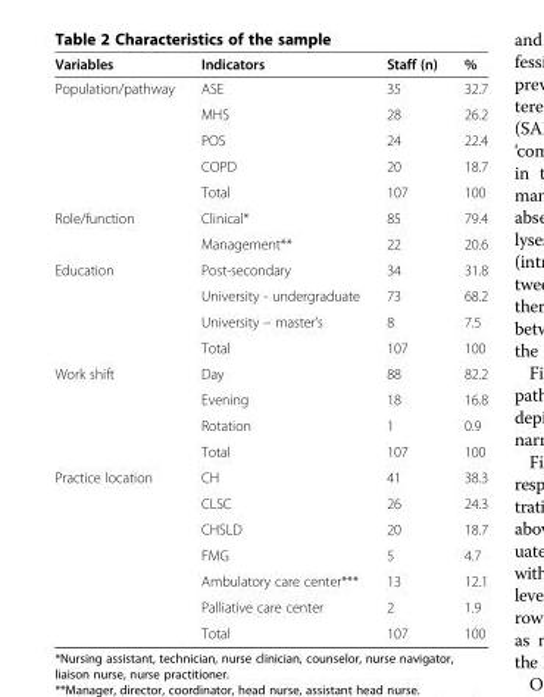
<table><thead><tr><td>Variables</td><td>Indicators</td><td>Staff (n)</td><td>%</td></tr></thead><tbody><tr><td rowspan="5">Population/pathway</td><td>ASE</td><td>35</td><td>32.7</td></tr><tr><td>MHS</td><td>28</td><td>26.2</td></tr><tr><td>POS</td><td>24</td><td>22.4</td></tr><tr><td>COPD</td><td>20</td><td>18.7</td></tr><tr><td>Total</td><td>107</td><td>100</td></tr><tr><td rowspan="2">Role/function</td><td>Clinical*</td><td>85</td><td>79.4</td></tr><tr><td>Management**</td><td>22</td><td>20.6</td></tr><tr><td rowspan="4">Education</td><td>Post-secondary</td><td>34</td><td>31.8</td></tr><tr><td>University - undergraduate</td><td>73</td><td>68.2</td></tr><tr><td>University – master’s</td><td>8</td><td>7.5</td></tr><tr><td>Total</td><td>107</td><td>100</td></tr><tr><td rowspan="4">Work shift</td><td>Day</td><td>88</td><td>82.2</td></tr><tr><td>Evening</td><td>18</td><td>16.8</td></tr><tr><td>Rotation</td><td>1</td><td>0.9</td></tr><tr><td>Total</td><td>107</td><td>100</td></tr><tr><td rowspan="7">Practice location</td><td>CH</td><td>41</td><td>38.3</td></tr><tr><td>CLSC</td><td>26</td><td>24.3</td></tr><tr><td>CHSLD</td><td>20</td><td>18.7</td></tr><tr><td>FMG</td><td>5</td><td>4.7</td></tr><tr><td>Ambulatory care center***</td><td>13</td><td>12.1</td></tr><tr><td>Palliative care center</td><td>2</td><td>1.9</td></tr><tr><td>Total</td><td>107</td><td>100</td></tr></tbody></table>